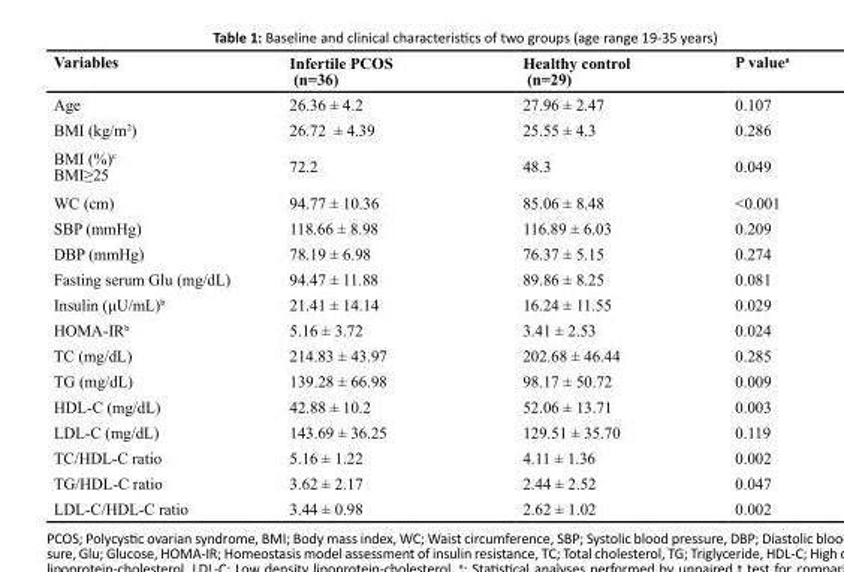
<table><thead><tr><td>Variables</td><td>Infertile PCOS (n=36)</td><td>Healthy control (n=29)</td><td>P valuea</td></tr></thead><tbody><tr><td>Age</td><td>26.36 ± 4.2</td><td>27.96 ± 2.47</td><td>0.107</td></tr><tr><td>BMI (kg/m2)</td><td>26.72 ± 4.39</td><td>25.55 ± 4.3</td><td>0.286</td></tr><tr><td>BMI (%)c BMI≥25</td><td>72.2</td><td>48.3</td><td>0.049</td></tr><tr><td>WC (cm)</td><td>94.77 ± 10.36</td><td>85.06 ± 8.48</td><td>&lt;0.001</td></tr><tr><td>SBP (mmHg)</td><td>118.66 ± 8.98</td><td>116.89 ± 6.03</td><td>0.209</td></tr><tr><td>DBP (mmHg)</td><td>78.19 ± 6.98</td><td>76.37 ± 5.15</td><td>0.274</td></tr><tr><td>Fasting serum Glu (mg/dL)</td><td>94.47 ± 11.88</td><td>89.86 ± 8.25</td><td>0.081</td></tr><tr><td>Insulin (μU/mL)b</td><td>21.41 ± 14.14</td><td>16.24 ± 11.55</td><td>0.029</td></tr><tr><td>HOMA-IRb</td><td>5.16 ± 3.72</td><td>3.41 ± 2.53</td><td>0.024</td></tr><tr><td>TC (mg/dL)</td><td>214.83 ± 43.97</td><td>202.68 ± 46.44</td><td>0.285</td></tr><tr><td>TG (mg/dL)</td><td>139.28 ± 66.98</td><td>98.17 ± 50.72</td><td>0.009</td></tr><tr><td>HDL-C (mg/dL)</td><td>42.88 ± 10.2</td><td>52.06 ± 13.71</td><td>0.003</td></tr><tr><td>LDL-C (mg/dL)</td><td>143.69 ± 36.25</td><td>129.51 ± 35.70</td><td>0.119</td></tr><tr><td>TC/HDL-C ratio</td><td>5.16 ± 1.22</td><td>4.11 ± 1.36</td><td>0.002</td></tr><tr><td>TG/HDL-C ratio</td><td>3.62 ± 2.17</td><td>2.44 ± 2.52</td><td>0.047</td></tr><tr><td>LDL-C/HDL-C ratio</td><td>3.44 ± 0.98</td><td>2.62 ± 1.02</td><td>0.002</td></tr></tbody></table>